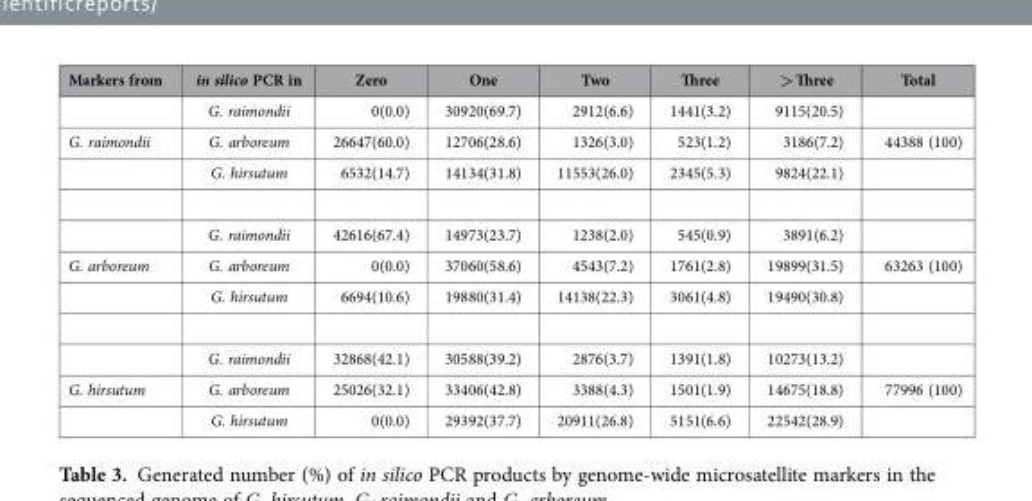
<table><thead><tr><td>Markers from</td><td>in silico PCR in</td><td>Zero</td><td>One</td><td>Two</td><td>Three</td><td>&gt; Three</td><td>Total</td></tr></thead><tbody><tr><td></td><td>G. raimondii</td><td>0(0.0)</td><td>30920(69.7)</td><td>2912(6.6)</td><td>1441(3.2)</td><td>9115(20.5)</td><td></td></tr><tr><td rowspan="3">G. raimondii</td><td>G. arboreum</td><td>26647(60.0)</td><td>12706(28.6)</td><td>1326(3.0)</td><td>523(1.2)</td><td>3186(7.2)</td><td>44388 (100)</td></tr><tr><td>G. hirsutum</td><td>6532(14.7)</td><td>14134(31.8)</td><td>11553(26.0)</td><td>2345(5.3)</td><td>9824(22.1)</td><td></td></tr><tr><td>G. raimondii</td><td>42616(67.4)</td><td>14973(23.7)</td><td>1238(2.0)</td><td>545(0.9)</td><td>3891(6.2)</td><td></td></tr><tr><td rowspan="3">G. arboreum</td><td>G. arboreum</td><td>0(0.0)</td><td>37060(58.6)</td><td>4543(7.2)</td><td>1761(2.8)</td><td>19899(31.5)</td><td>63263 (100)</td></tr><tr><td>G. hirsutum</td><td>6694(10.6)</td><td>19880(31.4)</td><td>14138(22.3)</td><td>3061(4.8)</td><td>19490(30.8)</td><td></td></tr><tr><td>G. raimondii</td><td>32868(42.1)</td><td>30588(39.2)</td><td>2876(3.7)</td><td>1391(1.8)</td><td>10273(13.2)</td><td></td></tr><tr><td rowspan="2">G. hirsutum</td><td>G. arboreum</td><td>25026(32.1)</td><td>33406(42.8)</td><td>3388(4.3)</td><td>1501(1.9)</td><td>14675(18.8)</td><td>77996 (100)</td></tr><tr><td>G. hirsutum</td><td>0(0.0)</td><td>29392(37.7)</td><td>20911(26.8)</td><td>5151(6.6)</td><td>22542(28.9)</td><td></td></tr></tbody></table>